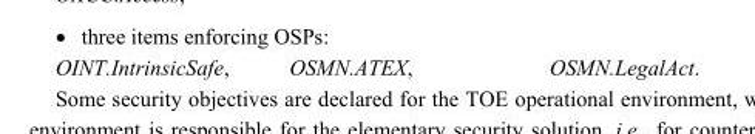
<table><tbody><tr><td>OINT.IntrinsicSafe,</td><td>OSMN.ATEX,</td><td>OSMN.LegalAct.</td></tr></tbody></table>